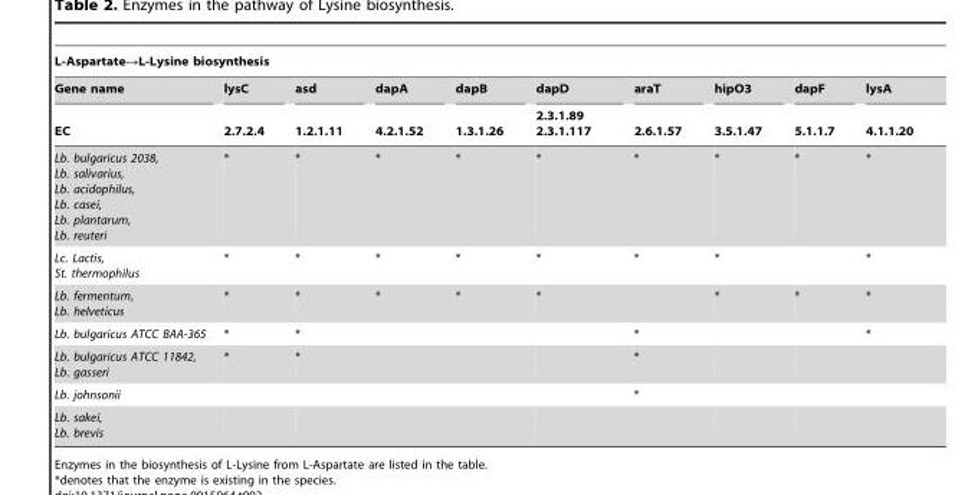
<table><thead><tr><td colspan="10">L-Aspartate→L-Lysine biosynthesis</td></tr><tr><td rowspan="2">Gene name EC</td><td rowspan="2">lysC 2.7.2.4</td><td rowspan="2">asd 1.2.1.11</td><td rowspan="2">dapA 4.2.1.52</td><td rowspan="2">dapB 1.3.1.26</td><td rowspan="2">dapD 2.3.1.89 2.3.1.117</td><td rowspan="2">araT 2.6.1.57</td><td rowspan="2">hipO3 3.5.1.47</td><td rowspan="2">dapF 5.1.1.7</td><td rowspan="2">lysA 4.1.1.20</td></tr><tr></tr></thead><tbody><tr><td>Lb. bulgaricus 2038, Lb. salivarius, Lb. acidophilus, Lb. casei, Lb. plantarum, Lb. reuteri</td><td>*</td><td>*</td><td>*</td><td>*</td><td>*</td><td>*</td><td>*</td><td>*</td><td>*</td></tr><tr><td>Lc. Lactis, St. thermophilus</td><td>*</td><td>*</td><td>*</td><td>*</td><td>*</td><td>*</td><td>*</td><td></td><td>*</td></tr><tr><td>Lb. fermentum, Lb. helveticus</td><td>*</td><td>*</td><td>*</td><td>*</td><td>*</td><td></td><td>*</td><td>*</td><td>*</td></tr><tr><td>Lb. bulgaricus ATCC BAA-365</td><td>*</td><td>*</td><td></td><td></td><td></td><td>*</td><td></td><td></td><td>*</td></tr><tr><td>Lb. bulgaricus ATCC 11842, Lb. gasseri</td><td>*</td><td>*</td><td></td><td></td><td></td><td>*</td><td></td><td></td><td></td></tr><tr><td>Lb. johnsonii</td><td></td><td></td><td></td><td></td><td></td><td>*</td><td></td><td></td><td></td></tr><tr><td>Lb. sakei, Lb. brevis</td><td></td><td></td><td></td><td></td><td></td><td></td><td></td><td></td><td></td></tr></tbody></table>